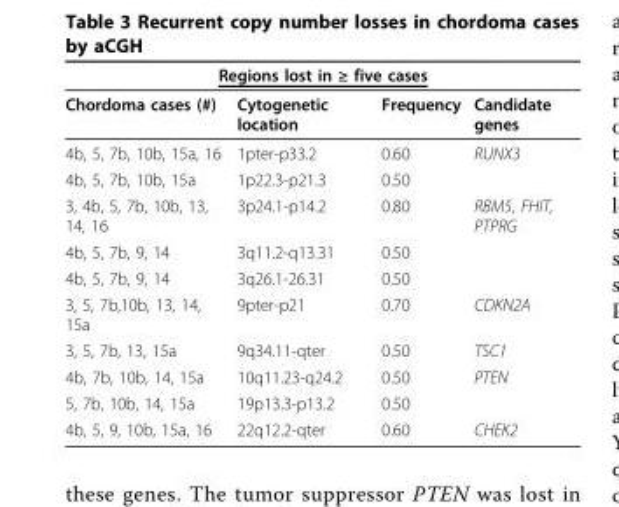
<table><thead><tr><td colspan="4">Regions lost in ≥ five cases</td></tr><tr><td>Chordoma cases (#)</td><td>Cytogenetic location</td><td>Frequency</td><td>Candidate genes</td></tr></thead><tbody><tr><td>4b, 5, 7b, 10b, 15a, 16</td><td>1pter-p33.2</td><td>0.60</td><td>RUNX3</td></tr><tr><td>4b, 5, 7b, 10b, 15a</td><td>1p22.3-p21.3</td><td>0.50</td><td></td></tr><tr><td>3, 4b, 5, 7b, 10b, 13, 14, 16</td><td>3p24.1-p14.2</td><td>0.80</td><td>RBM5, FHIT, PTPRG</td></tr><tr><td>4b, 5, 7b, 9, 14</td><td>3q11.2-q13.31</td><td>0.50</td><td></td></tr><tr><td>4b, 5, 7b, 9, 14</td><td>3q26.1-26.31</td><td>0.50</td><td></td></tr><tr><td>3, 5, 7b,10b, 13, 14, 15a</td><td>9pter-p21</td><td>0.70</td><td>CDKN2A</td></tr><tr><td>3, 5, 7b, 13, 15a</td><td>9q34.11-qter</td><td>0.50</td><td>TSC1</td></tr><tr><td>4b, 7b, 10b, 14, 15a</td><td>10q11.23-q24.2</td><td>0.50</td><td>PTEN</td></tr><tr><td>5, 7b, 10b, 14, 15a</td><td>19p13.3-p13.2</td><td>0.50</td><td></td></tr><tr><td>4b, 5, 9, 10b, 15a, 16</td><td>22q12.2-qter</td><td>0.60</td><td>CHEK2</td></tr></tbody></table>